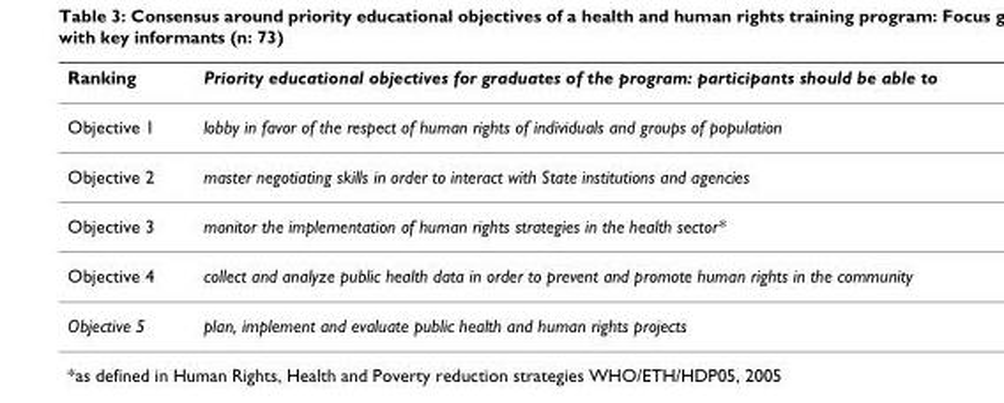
<table><thead><tr><td>Ranking</td><td>Priority educational objectives for graduates of the program: participants should be able to</td></tr></thead><tbody><tr><td>Objective 1</td><td>lobby in favor of the respect of human rights of individuals and groups of population</td></tr><tr><td>Objective 2</td><td>master negotiating skills in order to interact with State institutions and agencies</td></tr><tr><td>Objective 3</td><td>monitor the implementation of human rights strategies in the health sector*</td></tr><tr><td>Objective 4</td><td>collect and analyze public health data in order to prevent and promote human rights in the community</td></tr><tr><td>Objective 5</td><td>plan, implement and evaluate public health and human rights projects</td></tr></tbody></table>